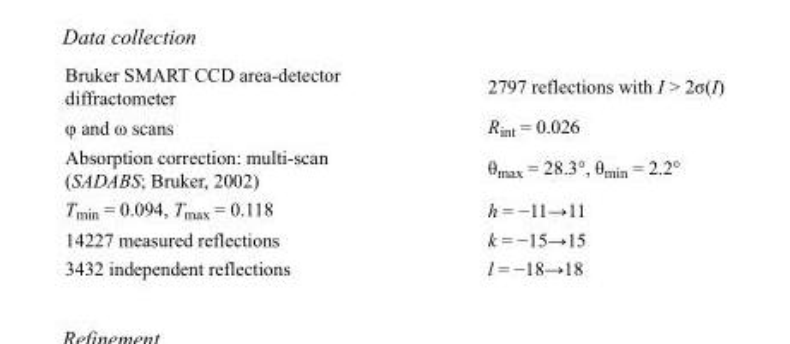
<table><tbody><tr><td>Bruker SMART CCD area-detector diffractometer</td><td>2797 reflections with I &gt; 2σ(I)</td></tr><tr><td>φ and ω scans</td><td>R<sub>int</sub> = 0.026</td></tr><tr><td>Absorption correction: multi-scan (SADABS; Bruker, 2002)</td><td>θ<sub>max</sub> = 28.3°, θ<sub>min</sub> = 2.2°</td></tr><tr><td>T<sub>min</sub> = 0.094, T<sub>max</sub> = 0.118</td><td>h = −11→11</td></tr><tr><td>14227 measured reflections</td><td>k = −15→15</td></tr><tr><td>3432 independent reflections</td><td>l = −18→18</td></tr></tbody></table>